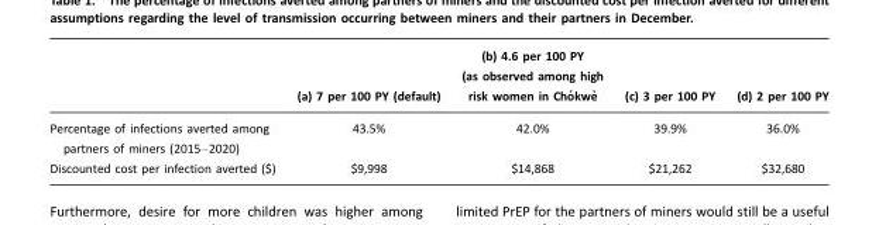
<table><thead><tr><td></td><td>(a) 7 per 100 PY (default)</td><td>(b) 4.6 per 100 PY (as observed among high risk women in Cho´kwe`</td><td>(c) 3 per 100 PY</td><td>(d) 2 per 100 PY</td></tr></thead><tbody><tr><td>Percentage of infections averted among partners of miners (2015–2020)</td><td>43.5%</td><td>42.0%</td><td>39.9%</td><td>36.0%</td></tr><tr><td>Discounted cost per infection averted ($)</td><td>$9,998</td><td>$14,868</td><td>$21,262</td><td>$32,680</td></tr></tbody></table>